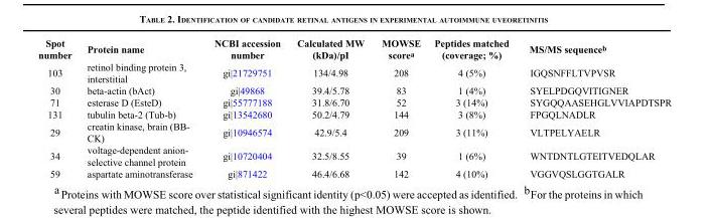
<table><tbody><tr><td>Spot number</td><td>Protein name</td><td>NCBI accession number</td><td>Calculated MW (kDa)/pI</td><td>MOWSE score<sup>a</sup></td><td>Peptides matched (coverage; %)</td><td>MS/MS sequence<sup>b</sup></td></tr><tr><td>103</td><td>retinol binding protein 3, interstitial</td><td>gi|21729751</td><td>134/4.98</td><td>208</td><td>4 (5%)</td><td>IGQSNFFLTVPVSR</td></tr><tr><td>30</td><td>beta-actin (bAct)</td><td>gi|49868</td><td>39.4/5.78</td><td>83</td><td>1 (4%)</td><td>SYELPDGQVITIGNER</td></tr><tr><td>71</td><td>esterase D (EsteD)</td><td>gi|55777188</td><td>31.8/6.70</td><td>52</td><td>3 (14%)</td><td>SYGQQAASEHGLVVIAPDTSPR</td></tr><tr><td>131</td><td>tubulin beta-2 (Tub-b)</td><td>gi|13542680</td><td>50.2/4.79</td><td>144</td><td>3 (8%)</td><td>FPGQLNADLR</td></tr><tr><td>29</td><td>creatin kinase, brain (BB- CK)</td><td>gi|10946574</td><td>42.9/5.4</td><td>209</td><td>3 (11%)</td><td>VLTPELYAELR</td></tr><tr><td>34</td><td>voltage-dependent anion- selective channel protein</td><td>gi|10720404</td><td>32.5/8.55</td><td>39</td><td>1 (6%)</td><td>WNTDNTLGTEITVEDQLAR</td></tr><tr><td>59</td><td>aspartate aminotransferase</td><td>gi|871422</td><td>46.4/6.68</td><td>142</td><td>4 (10%)</td><td>VGGVQSLGGTGALR</td></tr></tbody></table>